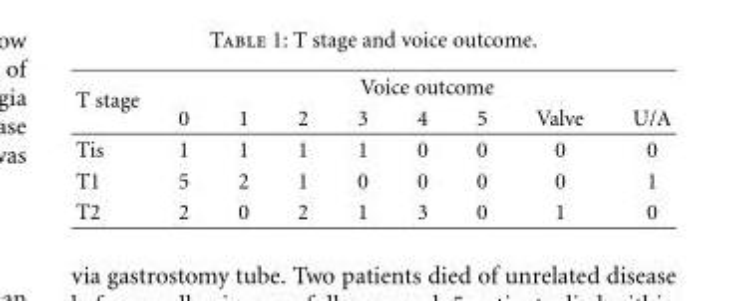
<table><thead><tr><td rowspan="2">T stage</td><td colspan="8">Voice outcome</td></tr><tr><td>0</td><td>1</td><td>2</td><td>3</td><td>4</td><td>5</td><td>Valve</td><td>U/A</td></tr></thead><tbody><tr><td>Tis</td><td>1</td><td>1</td><td>1</td><td>1</td><td>0</td><td>0</td><td>0</td><td>0</td></tr><tr><td>T1</td><td>5</td><td>2</td><td>1</td><td>0</td><td>0</td><td>0</td><td>0</td><td>1</td></tr><tr><td>T2</td><td>2</td><td>0</td><td>2</td><td>1</td><td>3</td><td>0</td><td>1</td><td>0</td></tr></tbody></table>